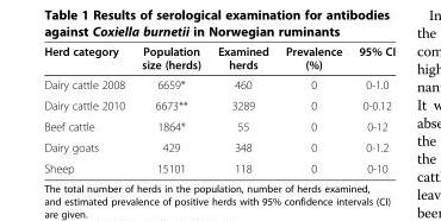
<table><thead><tr><td>Herd category</td><td>Population size (herds)</td><td>Examined herds</td><td>Prevalence (%)</td><td>95% CI</td></tr></thead><tbody><tr><td>Dairy cattle 2008</td><td>6659*</td><td>460</td><td>0</td><td>0-1.0</td></tr><tr><td>Dairy cattle 2010</td><td>6673**</td><td>3289</td><td>0</td><td>0-0.12</td></tr><tr><td>Beef cattle</td><td>1864*</td><td>55</td><td>0</td><td>0-12</td></tr><tr><td>Dairy goats</td><td>429</td><td>348</td><td>0</td><td>0-1.2</td></tr><tr><td>Sheep</td><td>15101</td><td>118</td><td>0</td><td>0-10</td></tr></tbody></table>